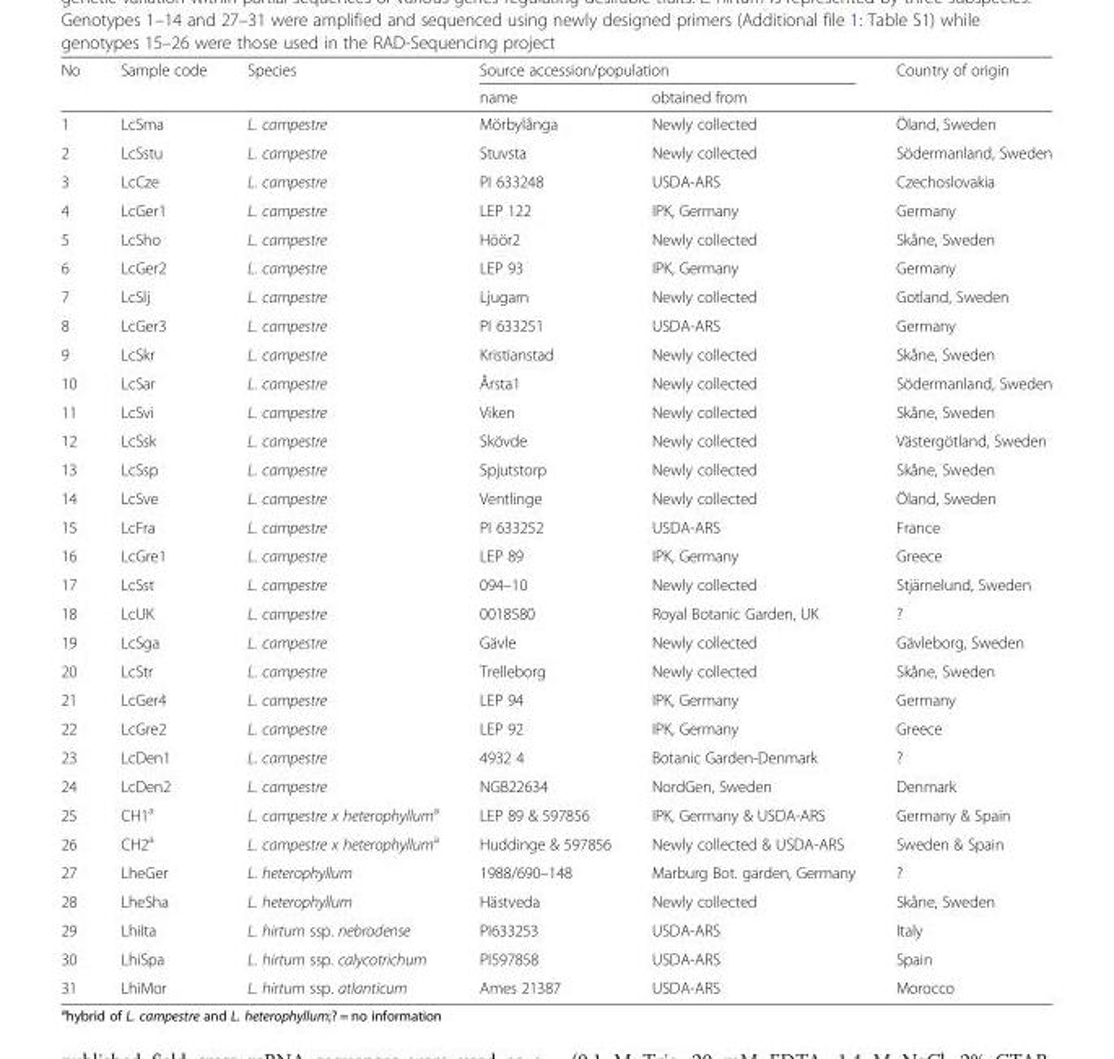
<table><thead><tr><td rowspan="2">No</td><td rowspan="2">Sample code</td><td rowspan="2">Species</td><td colspan="2">Source accession/population</td><td rowspan="2">Country of origin</td></tr><tr><td>name</td><td>obtained from</td></tr></thead><tbody><tr><td>1</td><td>LcSma</td><td>L. campestre</td><td>Mörbylånga</td><td>Newly collected</td><td>Öland, Sweden</td></tr><tr><td>2</td><td>LcSstu</td><td>L. campestre</td><td>Stuvsta</td><td>Newly collected</td><td>Södermanland, Sweden</td></tr><tr><td>3</td><td>LcCze</td><td>L. campestre</td><td>PI 633248</td><td>USDA-ARS</td><td>Czechoslovakia</td></tr><tr><td>4</td><td>LcGer1</td><td>L. campestre</td><td>LEP 122</td><td>IPK, Germany</td><td>Germany</td></tr><tr><td>5</td><td>LcSho</td><td>L. campestre</td><td>Höör2</td><td>Newly collected</td><td>Skåne, Sweden</td></tr><tr><td>6</td><td>LcGer2</td><td>L. campestre</td><td>LEP 93</td><td>IPK, Germany</td><td>Germany</td></tr><tr><td>7</td><td>LcSlj</td><td>L. campestre</td><td>Ljugarn</td><td>Newly collected</td><td>Gotland, Sweden</td></tr><tr><td>8</td><td>LcGer3</td><td>L. campestre</td><td>PI 633251</td><td>USDA-ARS</td><td>Germany</td></tr><tr><td>9</td><td>LcSkr</td><td>L. campestre</td><td>Kristianstad</td><td>Newly collected</td><td>Skåne, Sweden</td></tr><tr><td>10</td><td>LcSar</td><td>L. campestre</td><td>Årsta1</td><td>Newly collected</td><td>Södermanland, Sweden</td></tr><tr><td>11</td><td>LcSvi</td><td>L. campestre</td><td>Viken</td><td>Newly collected</td><td>Skåne, Sweden</td></tr><tr><td>12</td><td>LcSsk</td><td>L. campestre</td><td>Skövde</td><td>Newly collected</td><td>Västergötland, Sweden</td></tr><tr><td>13</td><td>LcSsp</td><td>L. campestre</td><td>Spjutstorp</td><td>Newly collected</td><td>Skåne, Sweden</td></tr><tr><td>14</td><td>LcSve</td><td>L. campestre</td><td>Ventlinge</td><td>Newly collected</td><td>Öland, Sweden</td></tr><tr><td>15</td><td>LcFra</td><td>L. campestre</td><td>PI 633252</td><td>USDA-ARS</td><td>France</td></tr><tr><td>16</td><td>LcGre1</td><td>L. campestre</td><td>LEP 89</td><td>IPK, Germany</td><td>Greece</td></tr><tr><td>17</td><td>LcSst</td><td>L. campestre</td><td>094–10</td><td>Newly collected</td><td>Stjärnelund, Sweden</td></tr><tr><td>18</td><td>LcUK</td><td>L. campestre</td><td>0018580</td><td>Royal Botanic Garden, UK</td><td>?</td></tr><tr><td>19</td><td>LcSga</td><td>L. campestre</td><td>Gävle</td><td>Newly collected</td><td>Gävleborg, Sweden</td></tr><tr><td>20</td><td>LcStr</td><td>L. campestre</td><td>Trelleborg</td><td>Newly collected</td><td>Skåne, Sweden</td></tr><tr><td>21</td><td>LcGer4</td><td>L. campestre</td><td>LEP 94</td><td>IPK, Germany</td><td>Germany</td></tr><tr><td>22</td><td>LcGre2</td><td>L. campestre</td><td>LEP 92</td><td>IPK, Germany</td><td>Greece</td></tr><tr><td>23</td><td>LcDen1</td><td>L. campestre</td><td>4932 4</td><td>Botanic Garden-Denmark</td><td>?</td></tr><tr><td>24</td><td>LcDen2</td><td>L. campestre</td><td>NGB22634</td><td>NordGen, Sweden</td><td>Denmark</td></tr><tr><td>25</td><td>CH1<sup>a</sup></td><td>L. campestre x heterophyllum<sup>a</sup></td><td>LEP 89 &amp; 597856</td><td>IPK, Germany &amp; USDA-ARS</td><td>Germany &amp; Spain</td></tr><tr><td>26</td><td>CH2<sup>a</sup></td><td>L. campestre x heterophyllum<sup>a</sup></td><td>Huddinge &amp; 597856</td><td>Newly collected &amp; USDA-ARS</td><td>Sweden &amp; Spain</td></tr><tr><td>27</td><td>LheGer</td><td>L. heterophyllum</td><td>1988/690–148</td><td>Marburg Bot. garden, Germany</td><td>?</td></tr><tr><td>28</td><td>LheSha</td><td>L. heterophyllum</td><td>Hästveda</td><td>Newly collected</td><td>Skåne, Sweden</td></tr><tr><td>29</td><td>LhiIta</td><td>L. hirtum ssp. nebrodense</td><td>PI633253</td><td>USDA-ARS</td><td>Italy</td></tr><tr><td>30</td><td>LhiSpa</td><td>L. hirtum ssp. calycotrichum</td><td>PI597858</td><td>USDA-ARS</td><td>Spain</td></tr><tr><td>31</td><td>LhiMor</td><td>L. hirtum ssp. atlanticum</td><td>Ames 21387</td><td>USDA-ARS</td><td>Morocco</td></tr></tbody></table>